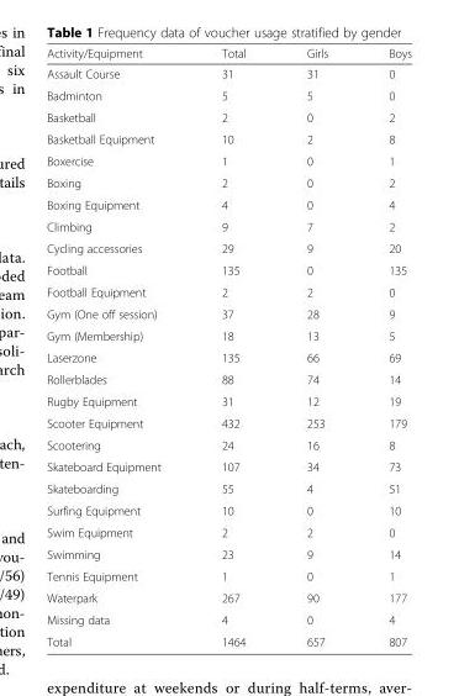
<table><thead><tr><td>Activity/Equipment</td><td>Total</td><td>Girls</td><td>Boys</td></tr></thead><tbody><tr><td>Assault Course</td><td>31</td><td>31</td><td>0</td></tr><tr><td>Badminton</td><td>5</td><td>5</td><td>0</td></tr><tr><td>Basketball</td><td>2</td><td>0</td><td>2</td></tr><tr><td>Basketball Equipment</td><td>10</td><td>2</td><td>8</td></tr><tr><td>Boxercise</td><td>1</td><td>0</td><td>1</td></tr><tr><td>Boxing</td><td>2</td><td>0</td><td>2</td></tr><tr><td>Boxing Equipment</td><td>4</td><td>0</td><td>4</td></tr><tr><td>Climbing</td><td>9</td><td>7</td><td>2</td></tr><tr><td>Cycling accessories</td><td>29</td><td>9</td><td>20</td></tr><tr><td>Football</td><td>135</td><td>0</td><td>135</td></tr><tr><td>Football Equipment</td><td>2</td><td>2</td><td>0</td></tr><tr><td>Gym (One off session)</td><td>37</td><td>28</td><td>9</td></tr><tr><td>Gym (Membership)</td><td>18</td><td>13</td><td>5</td></tr><tr><td>Laserzone</td><td>135</td><td>66</td><td>69</td></tr><tr><td>Rollerblades</td><td>88</td><td>74</td><td>14</td></tr><tr><td>Rugby Equipment</td><td>31</td><td>12</td><td>19</td></tr><tr><td>Scooter Equipment</td><td>432</td><td>253</td><td>179</td></tr><tr><td>Scootering</td><td>24</td><td>16</td><td>8</td></tr><tr><td>Skateboard Equipment</td><td>107</td><td>34</td><td>73</td></tr><tr><td>Skateboarding</td><td>55</td><td>4</td><td>51</td></tr><tr><td>Surfing Equipment</td><td>10</td><td>0</td><td>10</td></tr><tr><td>Swim Equipment</td><td>2</td><td>2</td><td>0</td></tr><tr><td>Swimming</td><td>23</td><td>9</td><td>14</td></tr><tr><td>Tennis Equipment</td><td>1</td><td>0</td><td>1</td></tr><tr><td>Waterpark</td><td>267</td><td>90</td><td>177</td></tr><tr><td>Missing data</td><td>4</td><td>0</td><td>4</td></tr><tr><td>Total</td><td>1464</td><td>657</td><td>807</td></tr></tbody></table>